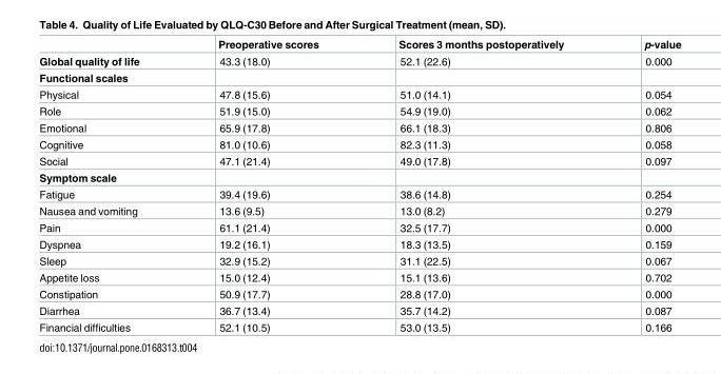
<table><thead><tr><td></td><td>Preoperative scores</td><td>Scores 3 months postoperatively</td><td>p-value</td></tr></thead><tbody><tr><td>Global quality of life</td><td>43.3 (18.0)</td><td>52.1 (22.6)</td><td>0.000</td></tr><tr><td colspan="4">Functional scales</td></tr><tr><td>Physical</td><td>47.8 (15.6)</td><td>51.0 (14.1)</td><td>0.054</td></tr><tr><td>Role</td><td>51.9 (15.0)</td><td>54.9 (19.0)</td><td>0.062</td></tr><tr><td>Emotional</td><td>65.9 (17.8)</td><td>66.1 (18.3)</td><td>0.806</td></tr><tr><td>Cognitive</td><td>81.0 (10.6)</td><td>82.3 (11.3)</td><td>0.058</td></tr><tr><td>Social</td><td>47.1 (21.4)</td><td>49.0 (17.8)</td><td>0.097</td></tr><tr><td colspan="4">Symptom scale</td></tr><tr><td>Fatigue</td><td>39.4 (19.6)</td><td>38.6 (14.8)</td><td>0.254</td></tr><tr><td>Nausea and vomiting</td><td>13.6 (9.5)</td><td>13.0 (8.2)</td><td>0.279</td></tr><tr><td>Pain</td><td>61.1 (21.4)</td><td>32.5 (17.7)</td><td>0.000</td></tr><tr><td>Dyspnea</td><td>19.2 (16.1)</td><td>18.3 (13.5)</td><td>0.159</td></tr><tr><td>Sleep</td><td>32.9 (15.2)</td><td>31.1 (22.5)</td><td>0.067</td></tr><tr><td>Appetite loss</td><td>15.0 (12.4)</td><td>15.1 (13.6)</td><td>0.702</td></tr><tr><td>Constipation</td><td>50.9 (17.7)</td><td>28.8 (17.0)</td><td>0.000</td></tr><tr><td>Diarrhea</td><td>36.7 (13.4)</td><td>35.7 (14.2)</td><td>0.087</td></tr><tr><td>Financial difficulties</td><td>52.1 (10.5)</td><td>53.0 (13.5)</td><td>0.166</td></tr></tbody></table>